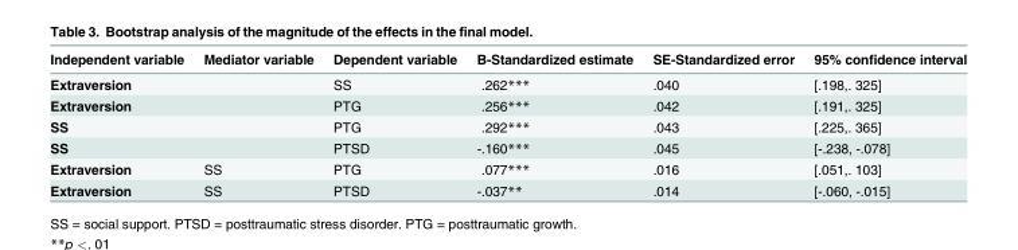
<table><thead><tr><td>Independent variable</td><td>Mediator variable</td><td>Dependent variable</td><td>B-Standardized estimate</td><td>SE-Standardized error</td><td>95% confidence interval</td></tr></thead><tbody><tr><td>Extraversion</td><td></td><td>SS</td><td>.262***</td><td>.040</td><td>[.198,. 325]</td></tr><tr><td>Extraversion</td><td></td><td>PTG</td><td>.256***</td><td>.042</td><td>[.191,. 325]</td></tr><tr><td>SS</td><td></td><td>PTG</td><td>.292***</td><td>.043</td><td>[.225,. 365]</td></tr><tr><td>SS</td><td></td><td>PTSD</td><td>-.160***</td><td>.045</td><td>[-.238, -.078]</td></tr><tr><td>Extraversion</td><td>SS</td><td>PTG</td><td>.077***</td><td>.016</td><td>[.051,. 103]</td></tr><tr><td>Extraversion</td><td>SS</td><td>PTSD</td><td>-.037**</td><td>.014</td><td>[-.060, -.015]</td></tr></tbody></table>